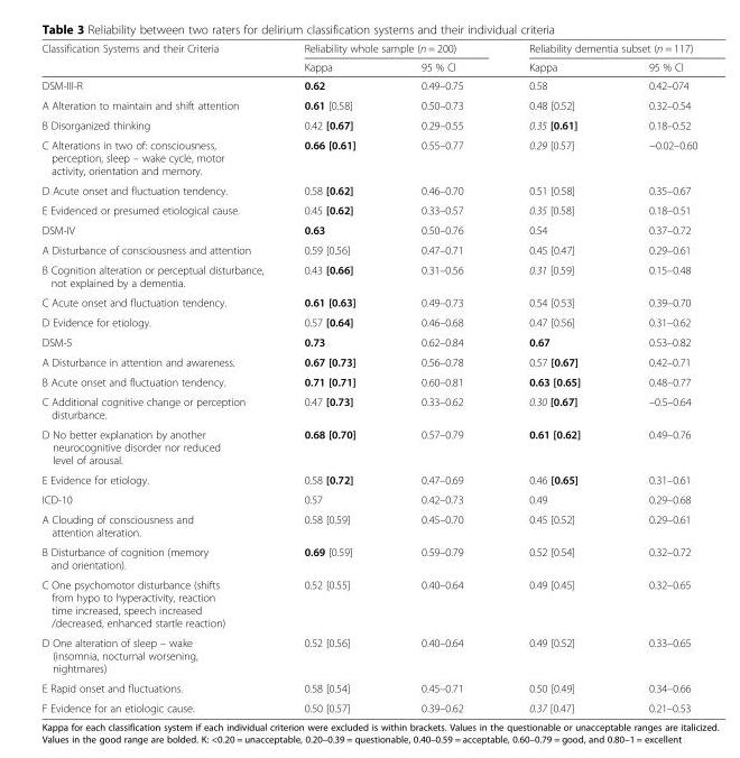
<table><thead><tr><td rowspan="2">Classification Systems and their Criteria</td><td colspan="2">Reliability whole sample (n = 200)</td><td colspan="2">Reliability dementia subset (n = 117)</td></tr><tr><td>Kappa</td><td>95 % CI</td><td>Kappa</td><td>95 % CI</td></tr></thead><tbody><tr><td>DSM-III-R</td><td>0.62</td><td>0.49–0.75</td><td>0.58</td><td>0.42–074</td></tr><tr><td>A Alteration to maintain and shift attention</td><td>0.61 [0.58]</td><td>0.50–0.73</td><td>0.48 [0.52]</td><td>0.32–0.54</td></tr><tr><td>B Disorganized thinking</td><td>0.42 [0.67]</td><td>0.29–0.55</td><td>0.35 [0.61]</td><td>0.18–0.52</td></tr><tr><td>C Alterations in two of: consciousness, perception, sleep – wake cycle, motor activity, orientation and memory.</td><td>0.66 [0.61]</td><td>0.55–0.77</td><td>0.29 [0.57]</td><td>−0.02–0.60</td></tr><tr><td>D Acute onset and fluctuation tendency.</td><td>0.58 [0.62]</td><td>0.46–0.70</td><td>0.51 [0.58]</td><td>0.35–0.67</td></tr><tr><td>E Evidenced or presumed etiological cause.</td><td>0.45 [0.62]</td><td>0.33–0.57</td><td>0.35 [0.58]</td><td>0.18–0.51</td></tr><tr><td>DSM-IV</td><td>0.63</td><td>0.50–0.76</td><td>0.54</td><td>0.37–0.72</td></tr><tr><td>A Disturbance of consciousness and attention</td><td>0.59 [0.56]</td><td>0.47–0.71</td><td>0.45 [0.47]</td><td>0.29–0.61</td></tr><tr><td>B Cognition alteration or perceptual disturbance, not explained by a dementia.</td><td>0.43 [0.66]</td><td>0.31–0.56</td><td>0.31 [0.59]</td><td>0.15–0.48</td></tr><tr><td>C Acute onset and fluctuation tendency.</td><td>0.61 [0.63]</td><td>0.49–0.73</td><td>0.54 [0.53]</td><td>0.39–0.70</td></tr><tr><td>D Evidence for etiology.</td><td>0.57 [0.64]</td><td>0.46–0.68</td><td>0.47 [0.56]</td><td>0.31–0.62</td></tr><tr><td>DSM-5</td><td>0.73</td><td>0.62–0.84</td><td>0.67</td><td>0.53–0.82</td></tr><tr><td>A Disturbance in attention and awareness.</td><td>0.67 [0.73]</td><td>0.56–0.78</td><td>0.57 [0.67]</td><td>0.42–0.71</td></tr><tr><td>B Acute onset and fluctuation tendency.</td><td>0.71 [0.71]</td><td>0.60–0.81</td><td>0.63 [0.65]</td><td>0.48–0.77</td></tr><tr><td>C Additional cognitive change or perception disturbance.</td><td>0.47 [0.73]</td><td>0.33–0.62</td><td>0.30 [0.67]</td><td>–0.5–0.64</td></tr><tr><td>D No better explanation by another neurocognitive disorder nor reduced level of arousal.</td><td>0.68 [0.70]</td><td>0.57–0.79</td><td>0.61 [0.62]</td><td>0.49–0.76</td></tr><tr><td>E Evidence for etiology.</td><td>0.58 [0.72]</td><td>0.47–0.69</td><td>0.46 [0.65]</td><td>0.31–0.61</td></tr><tr><td>ICD-10</td><td>0.57</td><td>0.42–0.73</td><td>0.49</td><td>0.29–0.68</td></tr><tr><td>A Clouding of consciousness and attention alteration.</td><td>0.58 [0.59]</td><td>0.45–0.70</td><td>0.45 [0.52]</td><td>0.29–0.61</td></tr><tr><td>B Disturbance of cognition (memory and orientation).</td><td>0.69 [0.59]</td><td>0.59–0.79</td><td>0.52 [0.54]</td><td>0.32–0.72</td></tr><tr><td>C One psychomotor disturbance (shifts from hypo to hyperactivity, reaction time increased, speech increased /decreased, enhanced startle reaction)</td><td>0.52 [0.55]</td><td>0.40–0.64</td><td>0.49 [0.45]</td><td>0.32–0.65</td></tr><tr><td>D One alteration of sleep – wake (insomnia, nocturnal worsening, nightmares)</td><td>0.52 [0.56]</td><td>0.40–0.64</td><td>0.49 [0.52]</td><td>0.33–0.65</td></tr><tr><td>E Rapid onset and fluctuations.</td><td>0.58 [0.54]</td><td>0.45–0.71</td><td>0.50 [0.49]</td><td>0.34–0.66</td></tr><tr><td>F Evidence for an etiologic cause.</td><td>0.50 [0.57]</td><td>0.39–0.62</td><td>0.37 [0.47]</td><td>0.21–0.53</td></tr></tbody></table>